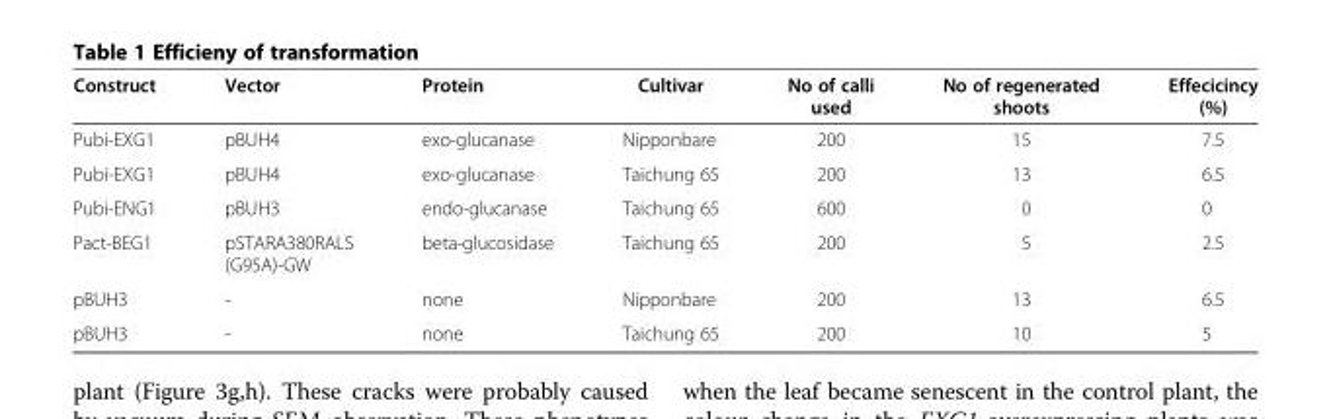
<table><thead><tr><td>Construct</td><td>Vector</td><td>Protein</td><td>Cultivar</td><td>No of calli used</td><td>No of regenerated shoots</td><td>Effecicincy (%)</td></tr></thead><tbody><tr><td>Pubi-EXG1</td><td>pBUH4</td><td>exo-glucanase</td><td>Nipponbare</td><td>200</td><td>15</td><td>7.5</td></tr><tr><td>Pubi-EXG1</td><td>pBUH4</td><td>exo-glucanase</td><td>Taichung 65</td><td>200</td><td>13</td><td>6.5</td></tr><tr><td>Pubi-ENG1</td><td>pBUH3</td><td>endo-glucanase</td><td>Taichung 65</td><td>600</td><td>0</td><td>0</td></tr><tr><td>Pact-BEG1</td><td>pSTARA380RALS (G95A)-GW</td><td>beta-glucosidase</td><td>Taichung 65</td><td>200</td><td>5</td><td>2.5</td></tr><tr><td>pBUH3</td><td>-</td><td>none</td><td>Nipponbare</td><td>200</td><td>13</td><td>6.5</td></tr><tr><td>pBUH3</td><td>-</td><td>none</td><td>Taichung 65</td><td>200</td><td>10</td><td>5</td></tr></tbody></table>